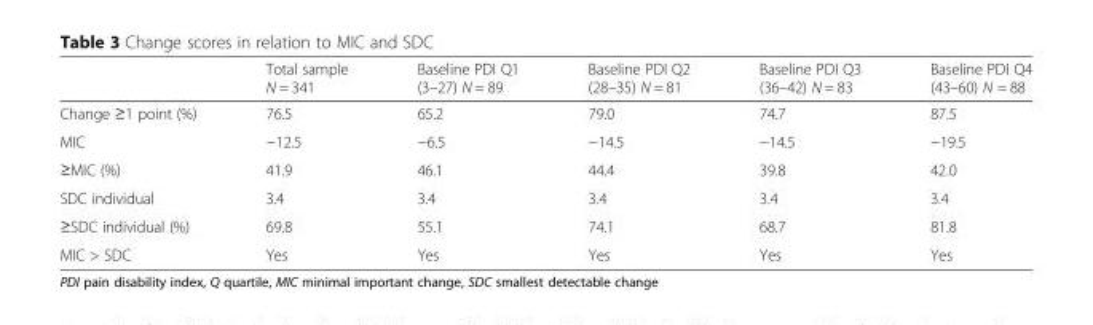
<table><thead><tr><td></td><td>Total sample N = 341</td><td>Baseline PDI Q1 (3–27) N = 89</td><td>Baseline PDI Q2 (28–35) N = 81</td><td>Baseline PDI Q3 (36–42) N = 83</td><td>Baseline PDI Q4 (43–60) N = 88</td></tr></thead><tbody><tr><td>Change ≥1 point (%)</td><td>76.5</td><td>65.2</td><td>79.0</td><td>74.7</td><td>87.5</td></tr><tr><td>MIC</td><td>−12.5</td><td>−6.5</td><td>−14.5</td><td>−14.5</td><td>−19.5</td></tr><tr><td>≥MIC (%)</td><td>41.9</td><td>46.1</td><td>44.4</td><td>39.8</td><td>42.0</td></tr><tr><td>SDC individual</td><td>3.4</td><td>3.4</td><td>3.4</td><td>3.4</td><td>3.4</td></tr><tr><td>≥SDC individual (%)</td><td>69.8</td><td>55.1</td><td>74.1</td><td>68.7</td><td>81.8</td></tr><tr><td>MIC &gt; SDC</td><td>Yes</td><td>Yes</td><td>Yes</td><td>Yes</td><td>Yes</td></tr></tbody></table>